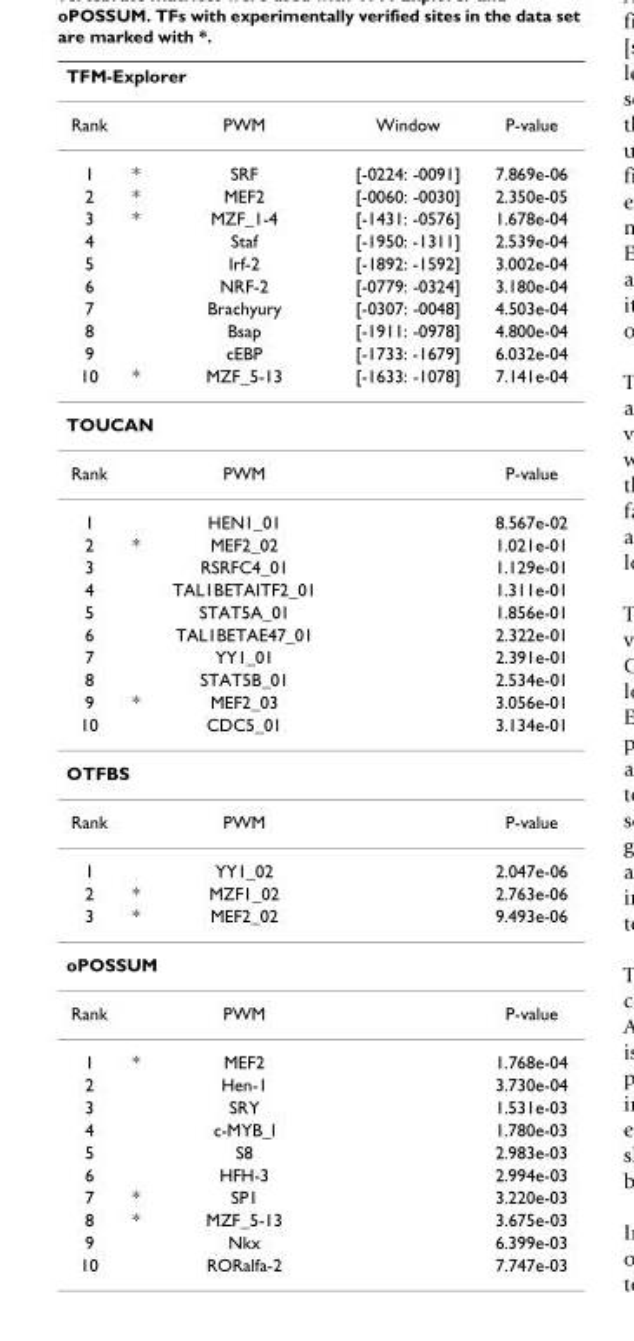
<table><thead><tr><td colspan="5">TFM-Explorer</td></tr><tr><td>Rank</td><td></td><td>PWM</td><td>Window</td><td>P-value</td></tr></thead><tbody><tr><td>1</td><td>*</td><td>SRF</td><td>[-0224: -0091]</td><td>7.869e-06</td></tr><tr><td>2</td><td>*</td><td>MEF2</td><td>[-0060: -0030]</td><td>2.350e-05</td></tr><tr><td>3</td><td>*</td><td>MZF_1-4</td><td>[-1431: -0576]</td><td>1.678e-04</td></tr><tr><td>4</td><td></td><td>Staf</td><td>[-1950: -1311]</td><td>2.539e-04</td></tr><tr><td>5</td><td></td><td>Irf-2</td><td>[-1892: -1592]</td><td>3.002e-04</td></tr><tr><td>6</td><td></td><td>NRF-2</td><td>[-0779: -0324]</td><td>3.180e-04</td></tr><tr><td>7</td><td></td><td>Brachyury</td><td>[-0307: -0048]</td><td>4.503e-04</td></tr><tr><td>8</td><td></td><td>Bsap</td><td>[-1911: -0978]</td><td>4.800e-04</td></tr><tr><td>9</td><td></td><td>cEBP</td><td>[-1733: -1679]</td><td>6.032e-04</td></tr><tr><td>10</td><td>*</td><td>MZF_5-13</td><td>[-1633: -1078]</td><td>7.141e-04</td></tr><tr><td colspan="5">TOUCAN</td></tr><tr><td>Rank</td><td></td><td>PWM</td><td></td><td>P-value</td></tr><tr><td>1</td><td></td><td>HEN1_01</td><td></td><td>8.567e-02</td></tr><tr><td>2</td><td>*</td><td>MEF2_02</td><td></td><td>1.021e-01</td></tr><tr><td>3</td><td></td><td>RSRFC4_01</td><td></td><td>1.129e-01</td></tr><tr><td>4</td><td></td><td>TAL1BETAITF2_01</td><td></td><td>1.311e-01</td></tr><tr><td>5</td><td></td><td>STAT5A_01</td><td></td><td>1.856e-01</td></tr><tr><td>6</td><td></td><td>TAL1BETAE47_01</td><td></td><td>2.322e-01</td></tr><tr><td>7</td><td></td><td>YY1_01</td><td></td><td>2.391e-01</td></tr><tr><td>8</td><td></td><td>STAT5B_01</td><td></td><td>2.534e-01</td></tr><tr><td>9</td><td>*</td><td>MEF2_03</td><td></td><td>3.056e-01</td></tr><tr><td>10</td><td></td><td>CDC5_01</td><td></td><td>3.134e-01</td></tr><tr><td colspan="5">OTFBS</td></tr><tr><td>Rank</td><td></td><td>PWM</td><td></td><td>P-value</td></tr><tr><td>1</td><td></td><td>YY1_02</td><td></td><td>2.047e-06</td></tr><tr><td>2</td><td>*</td><td>MZF1_02</td><td></td><td>2.763e-06</td></tr><tr><td>3</td><td>*</td><td>MEF2_02</td><td></td><td>9.493e-06</td></tr><tr><td colspan="5">oPOSSUM</td></tr><tr><td>Rank</td><td></td><td>PWM</td><td></td><td>P-value</td></tr><tr><td>1</td><td>*</td><td>MEF2</td><td></td><td>1.768e-04</td></tr><tr><td>2</td><td></td><td>Hen-1</td><td></td><td>3.730e-04</td></tr><tr><td>3</td><td></td><td>SRY</td><td></td><td>1.531e-03</td></tr><tr><td>4</td><td></td><td>c-MYB_l</td><td></td><td>1.780e-03</td></tr><tr><td>5</td><td></td><td>S8</td><td></td><td>2.983e-03</td></tr><tr><td>6</td><td></td><td>HFH-3</td><td></td><td>2.994e-03</td></tr><tr><td>7</td><td>*</td><td>SP1</td><td></td><td>3.220e-03</td></tr><tr><td>8</td><td>*</td><td>MZF_5-13</td><td></td><td>3.675e-03</td></tr><tr><td>9</td><td></td><td>Nkx</td><td></td><td>6.399e-03</td></tr><tr><td>10</td><td></td><td>RORalfa-2</td><td></td><td>7.747e-03</td></tr></tbody></table>